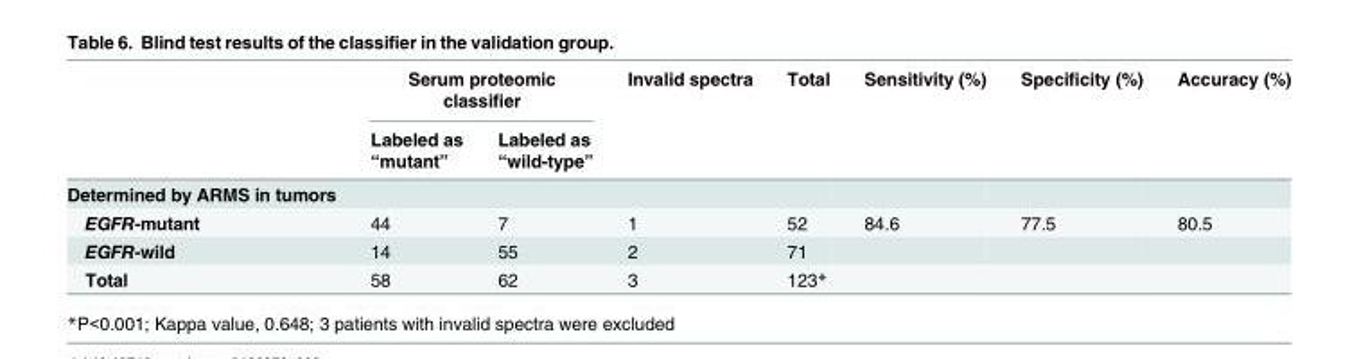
<table><thead><tr><td rowspan="2"></td><td colspan="2">Serum proteomic classifier</td><td rowspan="2">Invalid spectra</td><td rowspan="2">Total</td><td rowspan="2">Sensitivity (%)</td><td rowspan="2">Specificity (%)</td><td rowspan="2">Accuracy (%)</td></tr><tr><td>Labeled as “mutant”</td><td>Labeled as “wild-type”</td></tr></thead><tbody><tr><td colspan="8">Determined by ARMS in tumors</td></tr><tr><td>EGFR-mutant</td><td>44</td><td>7</td><td>1</td><td>52</td><td>84.6</td><td>77.5</td><td>80.5</td></tr><tr><td>EGFR-wild</td><td>14</td><td>55</td><td>2</td><td>71</td><td></td><td></td><td></td></tr><tr><td>Total</td><td>58</td><td>62</td><td>3</td><td>123*</td><td></td><td></td><td></td></tr></tbody></table>